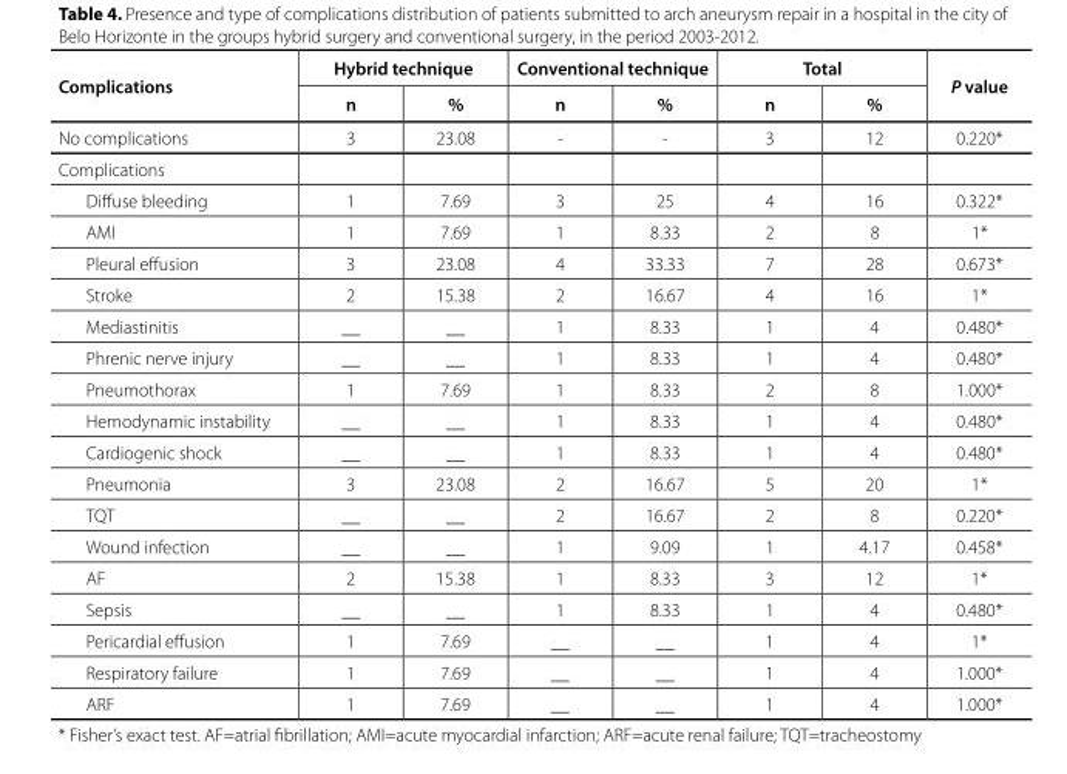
<table><thead><tr><td rowspan="2">Complications</td><td colspan="2">Hybrid technique</td><td colspan="2">Conventional technique</td><td colspan="2">Total</td><td rowspan="2">P value</td></tr><tr><td>n</td><td>%</td><td>n</td><td>%</td><td>n</td><td>%</td></tr></thead><tbody><tr><td>No complications</td><td>3</td><td>23.08</td><td>-</td><td>-</td><td>3</td><td>12</td><td>0.220*</td></tr><tr><td colspan="8">Complications</td></tr><tr><td>Diffuse bleeding</td><td>1</td><td>7.69</td><td>3</td><td>25</td><td>4</td><td>16</td><td>0.322*</td></tr><tr><td>AMI</td><td>1</td><td>7.69</td><td>1</td><td>8.33</td><td>2</td><td>8</td><td>1*</td></tr><tr><td>Pleural effusion</td><td>3</td><td>23.08</td><td>4</td><td>33.33</td><td>7</td><td>28</td><td>0.673*</td></tr><tr><td>Stroke</td><td>2</td><td>15.38</td><td>2</td><td>16.67</td><td>4</td><td>16</td><td>1*</td></tr><tr><td>Mediastinitis</td><td>__</td><td>__</td><td>1</td><td>8.33</td><td>1</td><td>4</td><td>0.480*</td></tr><tr><td>Phrenic nerve injury</td><td>__</td><td>__</td><td>1</td><td>8.33</td><td>1</td><td>4</td><td>0.480*</td></tr><tr><td>Pneumothorax</td><td>1</td><td>7.69</td><td>1</td><td>8.33</td><td>2</td><td>8</td><td>1.000*</td></tr><tr><td>Hemodynamic instability</td><td>__</td><td>__</td><td>1</td><td>8.33</td><td>1</td><td>4</td><td>0.480*</td></tr><tr><td>Cardiogenic shock</td><td>__</td><td>__</td><td>1</td><td>8.33</td><td>1</td><td>4</td><td>0.480*</td></tr><tr><td>Pneumonia</td><td>3</td><td>23.08</td><td>2</td><td>16.67</td><td>5</td><td>20</td><td>1*</td></tr><tr><td>TQT</td><td>__</td><td>__</td><td>2</td><td>16.67</td><td>2</td><td>8</td><td>0.220*</td></tr><tr><td>Wound infection</td><td>__</td><td>__</td><td>1</td><td>9.09</td><td>1</td><td>4.17</td><td>0.458*</td></tr><tr><td>AF</td><td>2</td><td>15.38</td><td>1</td><td>8.33</td><td>3</td><td>12</td><td>1*</td></tr><tr><td>Sepsis</td><td>__</td><td>__</td><td>1</td><td>8.33</td><td>1</td><td>4</td><td>0.480*</td></tr><tr><td>Pericardial effusion</td><td>1</td><td>7.69</td><td>__</td><td>__</td><td>1</td><td>4</td><td>1*</td></tr><tr><td>Respiratory failure</td><td>1</td><td>7.69</td><td>__</td><td>__</td><td>1</td><td>4</td><td>1.000*</td></tr><tr><td>ARF</td><td>1</td><td>7.69</td><td>__</td><td>__</td><td>1</td><td>4</td><td>1.000*</td></tr></tbody></table>